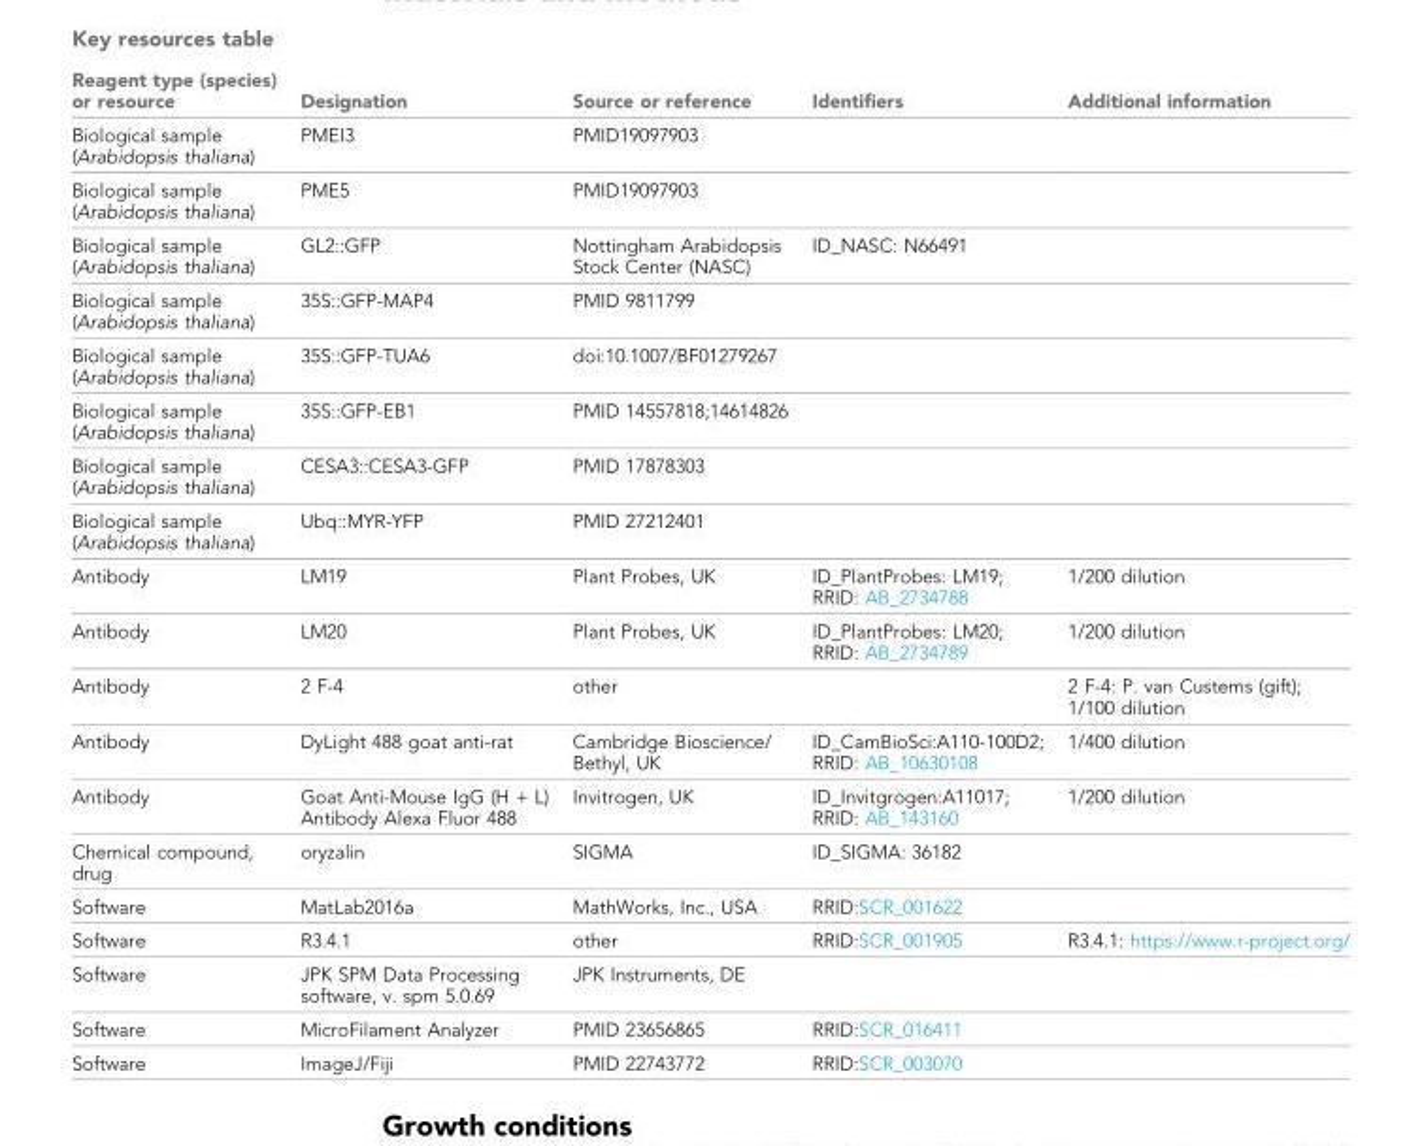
<table><thead><tr><td>Reagent type (species) or resource</td><td>Designation</td><td>Source or reference</td><td>Identifiers</td><td>Additional information</td></tr></thead><tbody><tr><td>Biological sample (Arabidopsis thaliana)</td><td>PMEI3</td><td>PMID19097903</td><td></td><td></td></tr><tr><td>Biological sample (Arabidopsis thaliana)</td><td>PME5</td><td>PMID19097903</td><td></td><td></td></tr><tr><td>Biological sample (Arabidopsis thaliana)</td><td>GL2::GFP</td><td>Nottingham Arabidopsis Stock Center (NASC)</td><td>ID_NASC: N66491</td><td></td></tr><tr><td>Biological sample (Arabidopsis thaliana)</td><td>35S::GFP-MAP4</td><td>PMID 9811799</td><td></td><td></td></tr><tr><td>Biological sample (Arabidopsis thaliana)</td><td>35S::GFP-TUA6</td><td>doi:10.1007/BF01279267</td><td></td><td></td></tr><tr><td>Biological sample (Arabidopsis thaliana)</td><td>35S::GFP-EB1</td><td>PMID 14557818;14614826</td><td></td><td></td></tr><tr><td>Biological sample (Arabidopsis thaliana)</td><td>CESA3::CESA3-GFP</td><td>PMID 17878303</td><td></td><td></td></tr><tr><td>Biological sample (Arabidopsis thaliana)</td><td>Ubq::MYR-YFP</td><td>PMID 27212401</td><td></td><td></td></tr><tr><td>Antibody</td><td>LM19</td><td>Plant Probes, UK</td><td>ID_PlantProbes: LM19; RRID: AB_2734788</td><td>1/200 dilution</td></tr><tr><td>Antibody</td><td>LM20</td><td>Plant Probes, UK</td><td>ID_PlantProbes: LM20; RRID: AB_2734789</td><td>1/200 dilution</td></tr><tr><td>Antibody</td><td>2 F-4</td><td>other</td><td></td><td>2 F-4: P. van Custems (gift); 1/100 dilution</td></tr><tr><td>Antibody</td><td>DyLight 488 goat anti-rat</td><td>Cambridge Bioscience/ Bethyl, UK</td><td>ID_CamBioSci:A110-100D2; RRID: AB_10630108</td><td>1/400 dilution</td></tr><tr><td>Antibody</td><td>Goat Anti-Mouse IgG (H + L) Antibody Alexa Fluor 488</td><td>Invitrogen, UK</td><td>ID_Invitgrogen:A11017; RRID: AB_143160</td><td>1/200 dilution</td></tr><tr><td>Chemical compound, drug</td><td>oryzalin</td><td>SIGMA</td><td>ID_SIGMA: 36182</td><td></td></tr><tr><td>Software</td><td>MatLab2016a</td><td>MathWorks, Inc., USA</td><td>RRID:SCR_001622</td><td></td></tr><tr><td>Software</td><td>R3.4.1</td><td>other</td><td>RRID:SCR_001905</td><td>R3.4.1: https://www.r-project.org/</td></tr><tr><td>Software</td><td>JPK SPM Data Processing software, v. spm 5.0.69</td><td>JPK Instruments, DE</td><td></td><td></td></tr><tr><td>Software</td><td>MicroFilament Analyzer</td><td>PMID 23656865</td><td>RRID:SCR_016411</td><td></td></tr><tr><td>Software</td><td>ImageJ/Fiji</td><td>PMID 22743772</td><td>RRID:SCR_003070</td><td></td></tr></tbody></table>